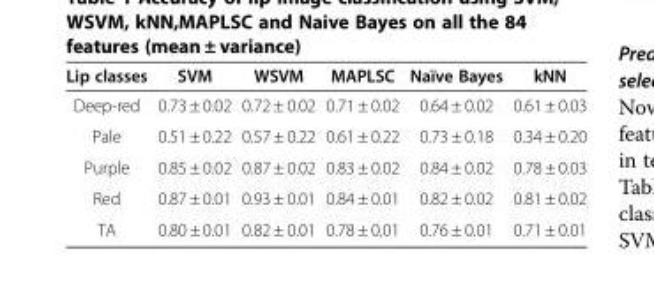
<table><thead><tr><td>Lip classes</td><td>SVM</td><td>WSVM</td><td>MAPLSC</td><td>Naïve Bayes</td><td>kNN</td></tr></thead><tbody><tr><td>Deep-red</td><td>0.73 ± 0.02</td><td>0.72 ± 0.02</td><td>0.71 ± 0.02</td><td>0.64 ± 0.02</td><td>0.61 ± 0.03</td></tr><tr><td>Pale</td><td>0.51 ± 0.22</td><td>0.57 ± 0.22</td><td>0.61 ± 0.22</td><td>0.73 ± 0.18</td><td>0.34 ± 0.20</td></tr><tr><td>Purple</td><td>0.85 ± 0.02</td><td>0.87 ± 0.02</td><td>0.83 ± 0.02</td><td>0.84 ± 0.02</td><td>0.78 ± 0.03</td></tr><tr><td>Red</td><td>0.87 ± 0.01</td><td>0.93 ± 0.01</td><td>0.84 ± 0.01</td><td>0.82 ± 0.02</td><td>0.81 ± 0.02</td></tr><tr><td>TA</td><td>0.80 ± 0.01</td><td>0.82 ± 0.01</td><td>0.78 ± 0.01</td><td>0.76 ± 0.01</td><td>0.71 ± 0.01</td></tr></tbody></table>